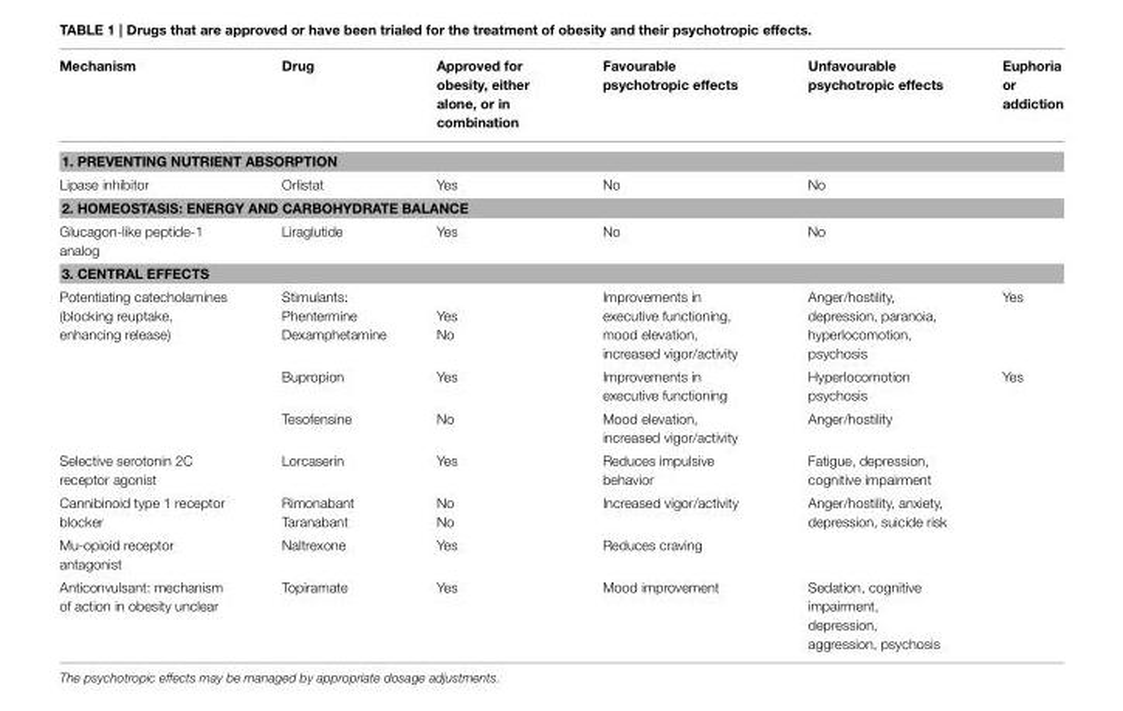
<table><thead><tr><td>Mechanism</td><td>Drug</td><td>Approved for obesity, either alone, or in combination</td><td>Favourable psychotropic effects</td><td>Unfavourable psychotropic effects</td><td>Euphoria or addiction</td></tr></thead><tbody><tr><td colspan="6">1. PREVENTING NUTRIENT ABSORPTION</td></tr><tr><td>Lipase inhibitor</td><td>Orlistat</td><td>Yes</td><td>No</td><td>No</td><td></td></tr><tr><td colspan="6">2. HOMEOSTASIS: ENERGY AND CARBOHYDRATE BALANCE</td></tr><tr><td>Glucagon-like peptide-1 analog</td><td>Liraglutide</td><td>Yes</td><td>No</td><td>No</td><td></td></tr><tr><td colspan="6">3. CENTRAL EFFECTS</td></tr><tr><td rowspan="3">Potentiating catecholamines (blocking reuptake, enhancing release)</td><td>Stimulants: Phentermine Dexamphetamine</td><td>Yes No</td><td>Improvements in executive functioning, mood elevation, increased vigor/activity</td><td>Anger/hostility, depression, paranoia, hyperlocomotion, psychosis</td><td>Yes</td></tr><tr><td>Bupropion</td><td>Yes</td><td>Improvements in executive functioning</td><td>Hyperlocomotion psychosis</td><td>Yes</td></tr><tr><td>Tesofensine</td><td>No</td><td>Mood elevation, increased vigor/activity</td><td>Anger/hostility</td><td></td></tr><tr><td>Selective serotonin 2C receptor agonist</td><td>Lorcaserin</td><td>Yes</td><td>Reduces impulsive behavior</td><td>Fatigue, depression, cognitive impairment</td><td></td></tr><tr><td>Cannibinoid type 1 receptor blocker</td><td>Rimonabant Taranabant</td><td>No No</td><td>Increased vigor/activity</td><td>Anger/hostility, anxiety, depression, suicide risk</td><td></td></tr><tr><td>Mu-opioid receptor antagonist</td><td>Naltrexone</td><td>Yes</td><td>Reduces craving</td><td></td><td></td></tr><tr><td>Anticonvulsant: mechanism of action in obesity unclear</td><td>Topiramate</td><td>Yes</td><td>Mood improvement</td><td>Sedation, cognitive impairment, depression, aggression, psychosis</td><td></td></tr></tbody></table>